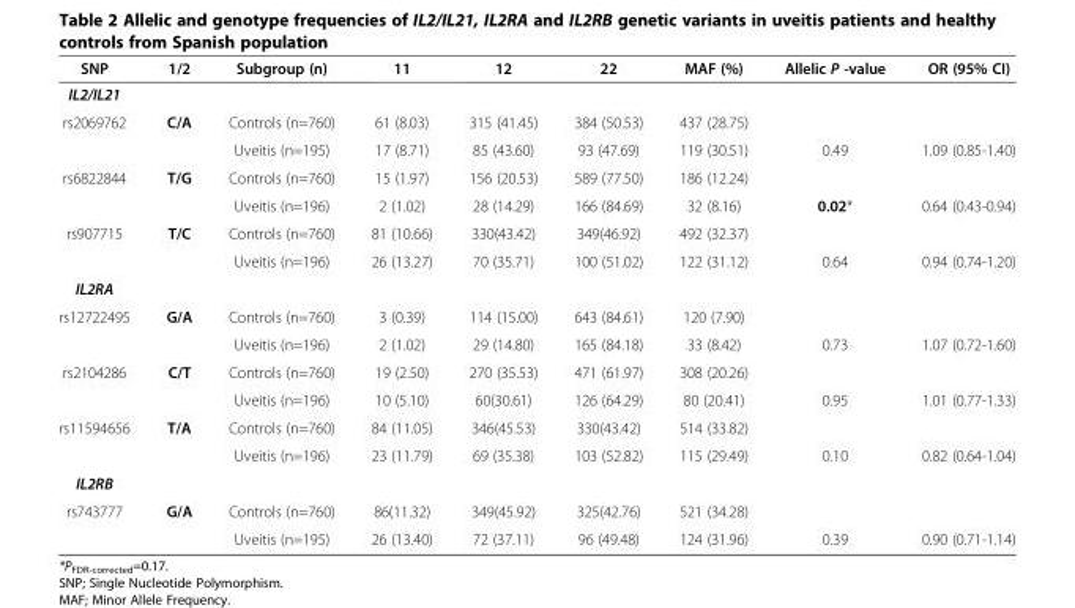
<table><thead><tr><td>SNP</td><td>1/2</td><td>Subgroup (n)</td><td>11</td><td>12</td><td>22</td><td>MAF (%)</td><td>Allelic P -value</td><td>OR (95% CI)</td></tr></thead><tbody><tr><td colspan="9">IL2/IL21</td></tr><tr><td rowspan="2">rs2069762</td><td>C/A</td><td>Controls (n=760)</td><td>61 (8.03)</td><td>315 (41.45)</td><td>384 (50.53)</td><td>437 (28.75)</td><td></td><td></td></tr><tr><td></td><td>Uveitis (n=195)</td><td>17 (8.71)</td><td>85 (43.60)</td><td>93 (47.69)</td><td>119 (30.51)</td><td>0.49</td><td>1.09 (0.85-1.40)</td></tr><tr><td rowspan="2">rs6822844</td><td>T/G</td><td>Controls (n=760)</td><td>15 (1.97)</td><td>156 (20.53)</td><td>589 (77.50)</td><td>186 (12.24)</td><td></td><td></td></tr><tr><td></td><td>Uveitis (n=196)</td><td>2 (1.02)</td><td>28 (14.29)</td><td>166 (84.69)</td><td>32 (8.16)</td><td>0.02*</td><td>0.64 (0.43-0.94)</td></tr><tr><td rowspan="2">rs907715</td><td>T/C</td><td>Controls (n=760)</td><td>81 (10.66)</td><td>330(43.42)</td><td>349(46.92)</td><td>492 (32.37)</td><td></td><td></td></tr><tr><td></td><td>Uveitis (n=196)</td><td>26 (13.27)</td><td>70 (35.71)</td><td>100 (51.02)</td><td>122 (31.12)</td><td>0.64</td><td>0.94 (0.74-1.20)</td></tr><tr><td colspan="9">IL2RA</td></tr><tr><td rowspan="2">rs12722495</td><td>G/A</td><td>Controls (n=760)</td><td>3 (0.39)</td><td>114 (15.00)</td><td>643 (84.61)</td><td>120 (7.90)</td><td></td><td></td></tr><tr><td></td><td>Uveitis (n=196)</td><td>2 (1.02)</td><td>29 (14.80)</td><td>165 (84.18)</td><td>33 (8.42)</td><td>0.73</td><td>1.07 (0.72-1.60)</td></tr><tr><td rowspan="2">rs2104286</td><td>C/T</td><td>Controls (n=760)</td><td>19 (2.50)</td><td>270 (35.53)</td><td>471 (61.97)</td><td>308 (20.26)</td><td></td><td></td></tr><tr><td></td><td>Uveitis (n=196)</td><td>10 (5.10)</td><td>60(30.61)</td><td>126 (64.29)</td><td>80 (20.41)</td><td>0.95</td><td>1.01 (0.77-1.33)</td></tr><tr><td rowspan="2">rs11594656</td><td>T/A</td><td>Controls (n=760)</td><td>84 (11.05)</td><td>346(45.53)</td><td>330(43.42)</td><td>514 (33.82)</td><td></td><td></td></tr><tr><td></td><td>Uveitis (n=196)</td><td>23 (11.79)</td><td>69 (35.38)</td><td>103 (52.82)</td><td>115 (29.49)</td><td>0.10</td><td>0.82 (0.64-1.04)</td></tr><tr><td colspan="9">IL2RB</td></tr><tr><td rowspan="2">rs743777</td><td>G/A</td><td>Controls (n=760)</td><td>86(11.32)</td><td>349(45.92)</td><td>325(42.76)</td><td>521 (34.28)</td><td></td><td></td></tr><tr><td></td><td>Uveitis (n=195)</td><td>26 (13.40)</td><td>72 (37.11)</td><td>96 (49.48)</td><td>124 (31.96)</td><td>0.39</td><td>0.90 (0.71-1.14)</td></tr></tbody></table>